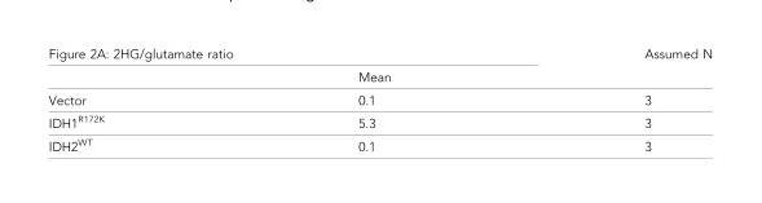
<table><tbody><tr><td colspan="2">Figure 2A: 2HG/glutamate ratio</td><td rowspan="2">Assumed N</td></tr><tr><td></td><td>Mean</td></tr><tr><td>Vector</td><td>0.1</td><td>3</td></tr><tr><td>IDH1<sup>R172K</sup></td><td>5.3</td><td>3</td></tr><tr><td>IDH2<sup>WT</sup></td><td>0.1</td><td>3</td></tr></tbody></table>